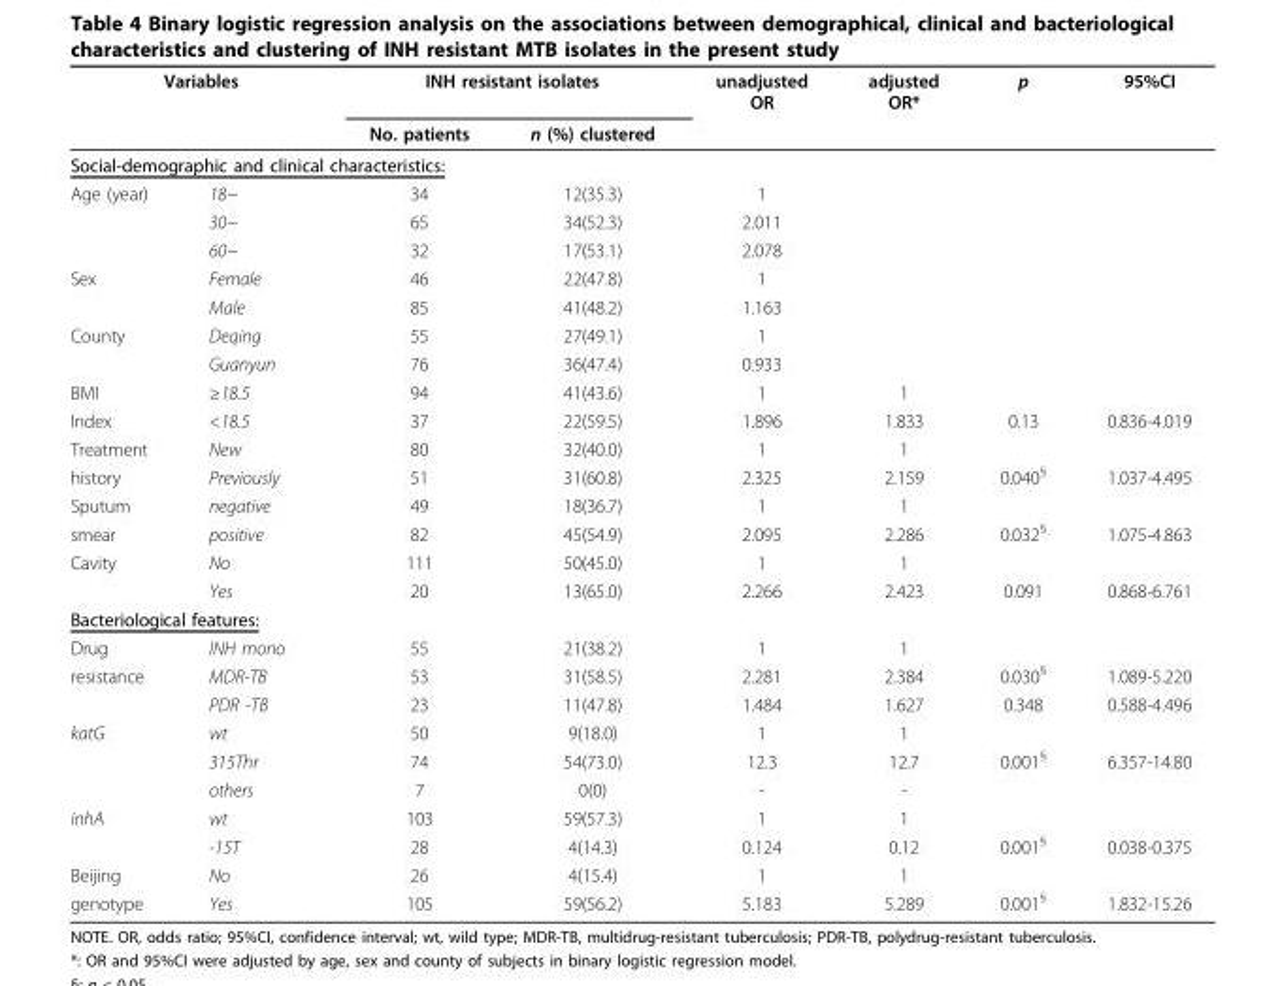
<table><thead><tr><td colspan="2">Variables</td><td colspan="2">INH resistant isolates</td><td rowspan="2">unadjusted OR</td><td rowspan="2">adjusted OR*</td><td rowspan="2">p</td><td rowspan="2">95%CI</td></tr><tr><td></td><td></td><td>No. patients</td><td>n (%) clustered</td></tr></thead><tbody><tr><td colspan="8">Social-demographic and clinical characteristics:</td></tr><tr><td rowspan="3">Age (year)</td><td>18~</td><td>34</td><td>12(35.3)</td><td>1</td><td></td><td></td><td></td></tr><tr><td>30~</td><td>65</td><td>34(52.3)</td><td>2.011</td><td></td><td></td><td></td></tr><tr><td>60~</td><td>32</td><td>17(53.1)</td><td>2.078</td><td></td><td></td><td></td></tr><tr><td rowspan="2">Sex</td><td>Female</td><td>46</td><td>22(47.8)</td><td>1</td><td></td><td></td><td></td></tr><tr><td>Male</td><td>85</td><td>41(48.2)</td><td>1.163</td><td></td><td></td><td></td></tr><tr><td rowspan="2">County</td><td>Deqing</td><td>55</td><td>27(49.1)</td><td>1</td><td></td><td></td><td></td></tr><tr><td>Guanyun</td><td>76</td><td>36(47.4)</td><td>0.933</td><td></td><td></td><td></td></tr><tr><td>BMI</td><td>≥18.5</td><td>94</td><td>41(43.6)</td><td>1</td><td>1</td><td></td><td></td></tr><tr><td>Index</td><td>&lt;18.5</td><td>37</td><td>22(59.5)</td><td>1.896</td><td>1.833</td><td>0.13</td><td>0.836-4.019</td></tr><tr><td>Treatment</td><td>New</td><td>80</td><td>32(40.0)</td><td>1</td><td>1</td><td></td><td></td></tr><tr><td>history</td><td>Previously</td><td>51</td><td>31(60.8)</td><td>2.325</td><td>2.159</td><td>0.040<sup>§</sup></td><td>1.037-4.495</td></tr><tr><td>Sputum</td><td>negative</td><td>49</td><td>18(36.7)</td><td>1</td><td>1</td><td></td><td></td></tr><tr><td>smear</td><td>positive</td><td>82</td><td>45(54.9)</td><td>2.095</td><td>2.286</td><td>0.032<sup>§</sup></td><td>1.075-4.863</td></tr><tr><td rowspan="2">Cavity</td><td>No</td><td>111</td><td>50(45.0)</td><td>1</td><td>1</td><td></td><td></td></tr><tr><td>Yes</td><td>20</td><td>13(65.0)</td><td>2.266</td><td>2.423</td><td>0.091</td><td>0.868-6.761</td></tr><tr><td colspan="8">Bacteriological features:</td></tr><tr><td>Drug</td><td>INH mono</td><td>55</td><td>21(38.2)</td><td>1</td><td>1</td><td></td><td></td></tr><tr><td rowspan="2">resistance</td><td>MDR-TB</td><td>53</td><td>31(58.5)</td><td>2.281</td><td>2.384</td><td>0.030<sup>§</sup></td><td>1.089-5.220</td></tr><tr><td>PDR -TB</td><td>23</td><td>11(47.8)</td><td>1.484</td><td>1.627</td><td>0.348</td><td>0.588-4.496</td></tr><tr><td rowspan="3">katG</td><td>wt</td><td>50</td><td>9(18.0)</td><td>1</td><td>1</td><td></td><td></td></tr><tr><td>315Thr</td><td>74</td><td>54(73.0)</td><td>12.3</td><td>12.7</td><td>0.001<sup>§</sup></td><td>6.357-14.80</td></tr><tr><td>others</td><td>7</td><td>0(0)</td><td>-</td><td>-</td><td></td><td></td></tr><tr><td rowspan="2">inhA</td><td>wt</td><td>103</td><td>59(57.3)</td><td>1</td><td>1</td><td></td><td></td></tr><tr><td>-15T</td><td>28</td><td>4(14.3)</td><td>0.124</td><td>0.12</td><td>0.001<sup>§</sup></td><td>0.038-0.375</td></tr><tr><td>Beijing</td><td>No</td><td>26</td><td>4(15.4)</td><td>1</td><td>1</td><td></td><td></td></tr><tr><td>genotype</td><td>Yes</td><td>105</td><td>59(56.2)</td><td>5.183</td><td>5.289</td><td>0.001<sup>§</sup></td><td>1.832-15.26</td></tr></tbody></table>